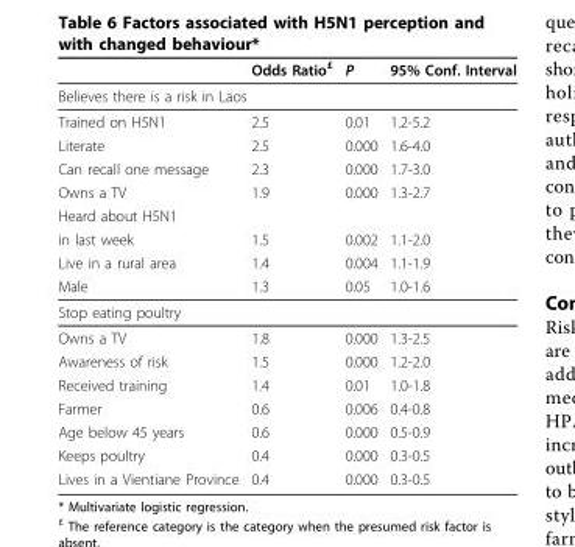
<table><thead><tr><td></td><td>Odds Ratio<sup>£</sup></td><td>P</td><td>95% Conf. Interval</td></tr></thead><tbody><tr><td colspan="4">Believes there is a risk in Laos</td></tr><tr><td>Trained on H5N1</td><td>2.5</td><td>0.01</td><td>1.2-5.2</td></tr><tr><td>Literate</td><td>2.5</td><td>0.000</td><td>1.6-4.0</td></tr><tr><td>Can recall one message</td><td>2.3</td><td>0.000</td><td>1.7-3.0</td></tr><tr><td>Owns a TV</td><td>1.9</td><td>0.000</td><td>1.3-2.7</td></tr><tr><td colspan="4">Heard about H5N1</td></tr><tr><td>in last week</td><td>1.5</td><td>0.002</td><td>1.1-2.0</td></tr><tr><td>Live in a rural area</td><td>1.4</td><td>0.004</td><td>1.1-1.9</td></tr><tr><td>Male</td><td>1.3</td><td>0.05</td><td>1.0-1.6</td></tr><tr><td colspan="4">Stop eating poultry</td></tr><tr><td>Owns a TV</td><td>1.8</td><td>0.000</td><td>1.3-2.5</td></tr><tr><td>Awareness of risk</td><td>1.5</td><td>0.000</td><td>1.2-2.0</td></tr><tr><td>Received training</td><td>1.4</td><td>0.01</td><td>1.0-1.8</td></tr><tr><td>Farmer</td><td>0.6</td><td>0.006</td><td>0.4-0.8</td></tr><tr><td>Age below 45 years</td><td>0.6</td><td>0.000</td><td>0.5-0.9</td></tr><tr><td>Keeps poultry</td><td>0.4</td><td>0.000</td><td>0.3-0.5</td></tr><tr><td>Lives in a Vientiane Province</td><td>0.4</td><td>0.000</td><td>0.3-0.5</td></tr></tbody></table>